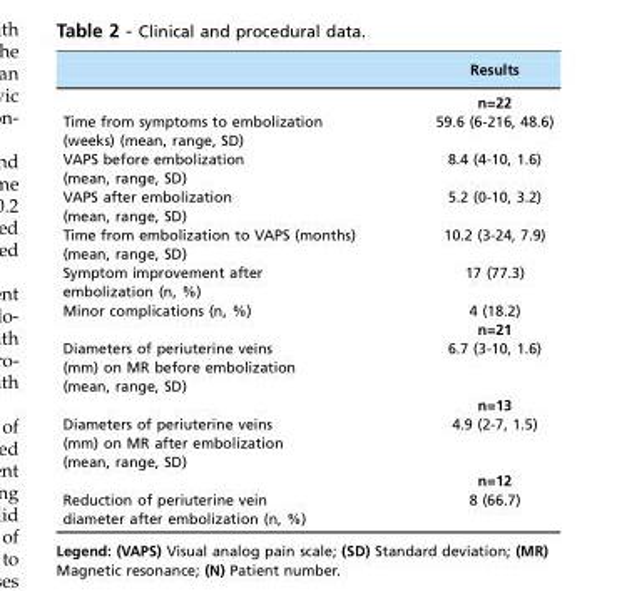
<table><thead><tr><td></td><td>Results</td></tr></thead><tbody><tr><td></td><td>n=22</td></tr><tr><td>Time from symptoms to embolization (weeks) (mean, range, SD)</td><td>59.6 (6-216, 48.6)</td></tr><tr><td>VAPS before embolization (mean, range, SD)</td><td>8.4 (4-10, 1.6)</td></tr><tr><td>VAPS after embolization (mean, range, SD)</td><td>5.2 (0-10, 3.2)</td></tr><tr><td>Time from embolization to VAPS (months) (mean, range, SD)</td><td>10.2 (3-24, 7.9)</td></tr><tr><td>Symptom improvement after embolization (n, %)</td><td>17 (77.3)</td></tr><tr><td rowspan="2">Minor complications (n, %)</td><td>4 (18.2)</td></tr><tr><td>n=21</td></tr><tr><td rowspan="2">Diameters of periuterine veins (mm) on MR before embolization (mean, range, SD)</td><td>6.7 (3-10, 1.6)</td></tr><tr><td>n=13</td></tr><tr><td rowspan="2">Diameters of periuterine veins (mm) on MR after embolization (mean, range, SD)</td><td>4.9 (2-7, 1.5)</td></tr><tr><td>n=12</td></tr><tr><td>Reduction of periuterine vein diameter after embolization (n, %)</td><td>8 (66.7)</td></tr></tbody></table>